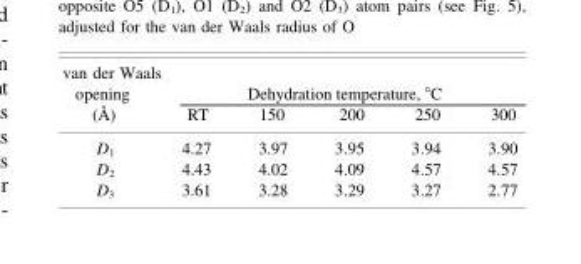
<table><thead><tr><td rowspan="2">van der Waals opening (Å)</td><td colspan="5">Dehydration temperature, °C</td></tr><tr><td>RT</td><td>150</td><td>200</td><td>250</td><td>300</td></tr></thead><tbody><tr><td>D<sub>1</sub></td><td>4.27</td><td>3.97</td><td>3.95</td><td>3.94</td><td>3.90</td></tr><tr><td>D<sub>2</sub></td><td>4.43</td><td>4.02</td><td>4.09</td><td>4.57</td><td>4.57</td></tr><tr><td>D<sub>3</sub></td><td>3.61</td><td>3.28</td><td>3.29</td><td>3.27</td><td>2.77</td></tr></tbody></table>